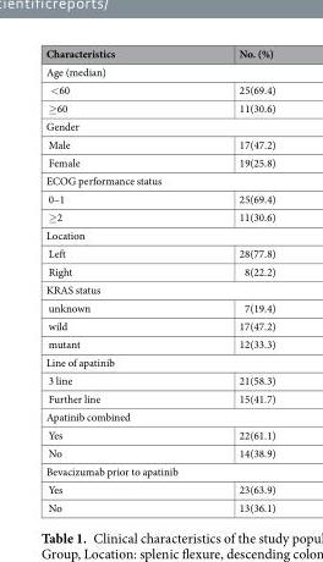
<table><thead><tr><td>Characteristics</td><td>No. (%)</td></tr></thead><tbody><tr><td colspan="2">Age (median)</td></tr><tr><td>&lt;60</td><td>25(69.4)</td></tr><tr><td>≥60</td><td>11(30.6)</td></tr><tr><td colspan="2">Gender</td></tr><tr><td>Male</td><td>17(47.2)</td></tr><tr><td>Female</td><td>19(25.8)</td></tr><tr><td colspan="2">ECOG performance status</td></tr><tr><td>0–1</td><td>25(69.4)</td></tr><tr><td>≥2</td><td>11(30.6)</td></tr><tr><td colspan="2">Location</td></tr><tr><td>Left</td><td>28(77.8)</td></tr><tr><td>Right</td><td>8(22.2)</td></tr><tr><td colspan="2">KRAS status</td></tr><tr><td>unknown</td><td>7(19.4)</td></tr><tr><td>wild</td><td>17(47.2)</td></tr><tr><td>mutant</td><td>12(33.3)</td></tr><tr><td colspan="2">Line of apatinib</td></tr><tr><td>3 line</td><td>21(58.3)</td></tr><tr><td>Further line</td><td>15(41.7)</td></tr><tr><td colspan="2">Apatinib combined</td></tr><tr><td>Yes</td><td>22(61.1)</td></tr><tr><td>No</td><td>14(38.9)</td></tr><tr><td colspan="2">Bevacizumab prior to apatinib</td></tr><tr><td>Yes</td><td>23(63.9)</td></tr><tr><td>No</td><td>13(36.1)</td></tr></tbody></table>